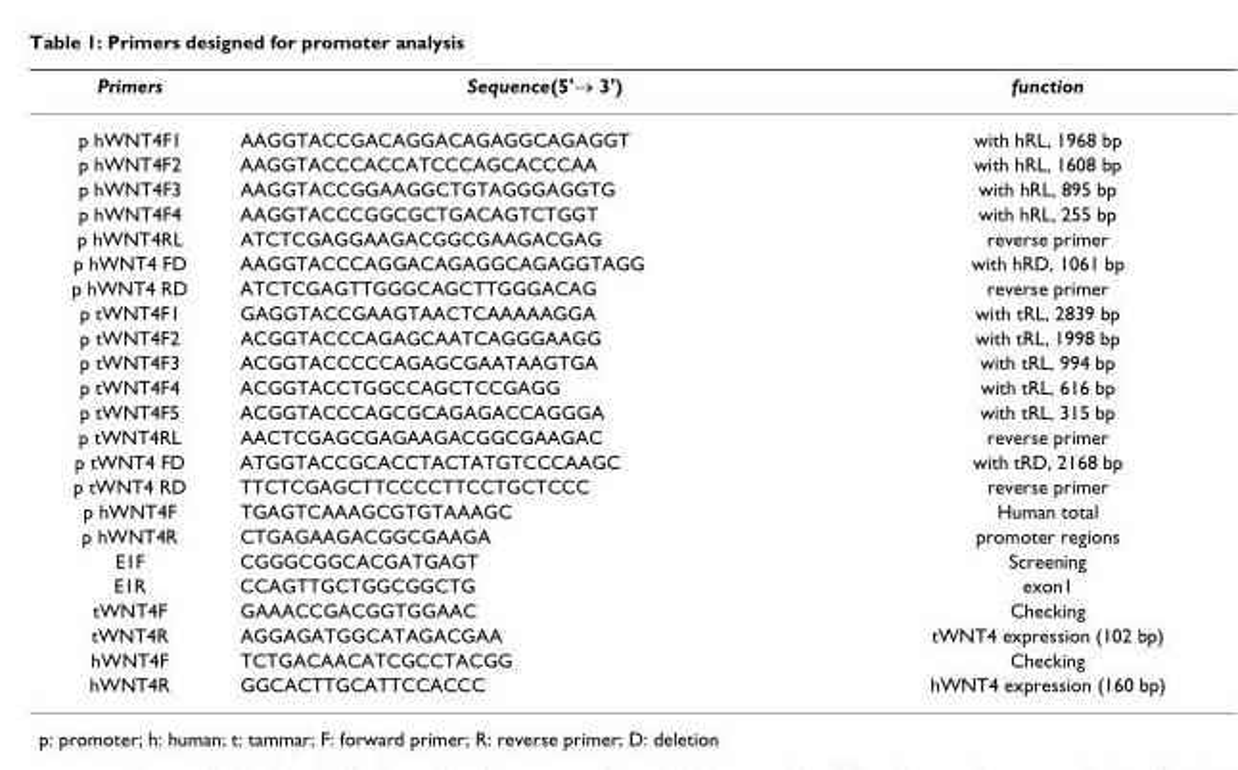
<table><thead><tr><td>Primers</td><td>Sequence(5&#x27;→ 3&#x27;)</td><td>function</td></tr></thead><tbody><tr><td>p hWNT4F1</td><td>AAGGTACCGACAGGACAGAGGCAGAGGT</td><td>with hRL, 1968 bp</td></tr><tr><td>p hWNT4F2</td><td>AAGGTACCCACCATCCCAGCACCCAA</td><td>with hRL, 1608 bp</td></tr><tr><td>p hWNT4F3</td><td>AAGGTACCGGAAGGCTGTAGGGAGGTG</td><td>with hRL, 895 bp</td></tr><tr><td>p hWNT4F4</td><td>AAGGTACCCGGCGCTGACAGTCTGGT</td><td>with hRL, 255 bp</td></tr><tr><td>p hWNT4RL</td><td>ATCTCGAGGAAGACGGCGAAGACGAG</td><td>reverse primer</td></tr><tr><td>p hWNT4 FD</td><td>AAGGTACCCAGGACAGAGGCAGAGGTAGG</td><td>with hRD, 1061 bp</td></tr><tr><td>p hWNT4 RD</td><td>ATCTCGAGTTGGGCAGCTTGGGACAG</td><td>reverse primer</td></tr><tr><td>p tWNT4F1</td><td>GAGGTACCGAAGTAACTCAAAAAGGA</td><td>with tRL, 2839 bp</td></tr><tr><td>p tWNT4F2</td><td>ACGGTACCCAGAGCAATCAGGGAAGG</td><td>with tRL, 1998 bp</td></tr><tr><td>p tWNT4F3</td><td>ACGGTACCCCCAGAGCGAATAAGTGA</td><td>with tRL, 994 bp</td></tr><tr><td>p tWNT4F4</td><td>ACGGTACCTGGCCAGCTCCGAGG</td><td>with tRL, 616 bp</td></tr><tr><td>p tWNT4F5</td><td>ACGGTACCCAGCGCAGAGACCAGGGA</td><td>with tRL, 315 bp</td></tr><tr><td>p tWNT4RL</td><td>AACTCGAGCGAGAAGACGGCGAAGAC</td><td>reverse primer</td></tr><tr><td>p tWNT4 FD</td><td>ATGGTACCGCACCTACTATGTCCCAAGC</td><td>with tRD, 2168 bp</td></tr><tr><td>p tWNT4 RD</td><td>TTCTCGAGCTTCCCCTTCCTGCTCCC</td><td>reverse primer</td></tr><tr><td>p hWNT4F</td><td>TGAGTCAAAGCGTGTAAAGC</td><td>Human total</td></tr><tr><td>p hWNT4R</td><td>CTGAGAAGACGGCGAAGA</td><td>promoter regions</td></tr><tr><td>E1F</td><td>CGGGCGGCACGATGAGT</td><td>Screening</td></tr><tr><td>E1R</td><td>CCAGTTGCTGGCGGCTG</td><td>exon1</td></tr><tr><td>tWNT4F</td><td>GAAACCGACGGTGGAAC</td><td>Checking</td></tr><tr><td>tWNT4R</td><td>AGGAGATGGCATAGACGAA</td><td>tWNT4 expression (102 bp)</td></tr><tr><td>hWNT4F</td><td>TCTGACAACATCGCCTACGG</td><td>Checking</td></tr><tr><td>hWNT4R</td><td>GGCACTTGCATTCCACCC</td><td>hWNT4 expression (160 bp)</td></tr></tbody></table>